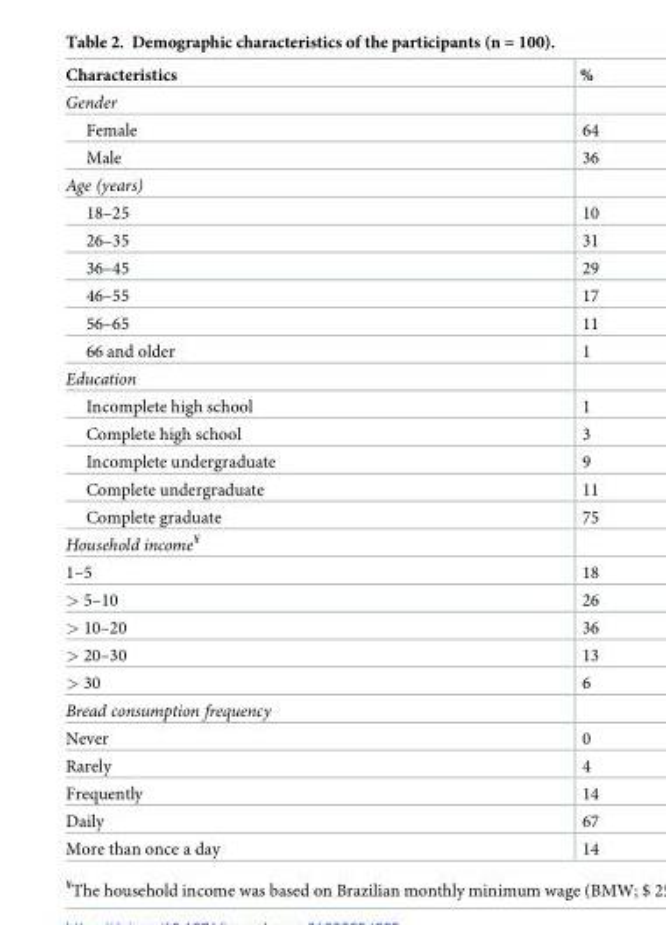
<table><thead><tr><td>Characteristics</td><td>%</td></tr></thead><tbody><tr><td colspan="2">Gender</td></tr><tr><td>Female</td><td>64</td></tr><tr><td>Male</td><td>36</td></tr><tr><td colspan="2">Age (years)</td></tr><tr><td>18–25</td><td>10</td></tr><tr><td>26–35</td><td>31</td></tr><tr><td>36–45</td><td>29</td></tr><tr><td>46–55</td><td>17</td></tr><tr><td>56–65</td><td>11</td></tr><tr><td>66 and older</td><td>1</td></tr><tr><td colspan="2">Education</td></tr><tr><td>Incomplete high school</td><td>1</td></tr><tr><td>Complete high school</td><td>3</td></tr><tr><td>Incomplete undergraduate</td><td>9</td></tr><tr><td>Complete undergraduate</td><td>11</td></tr><tr><td>Complete graduate</td><td>75</td></tr><tr><td colspan="2">Household income<sup>¥</sup></td></tr><tr><td>1–5</td><td>18</td></tr><tr><td>&gt; 5–10</td><td>26</td></tr><tr><td>&gt; 10–20</td><td>36</td></tr><tr><td>&gt; 20–30</td><td>13</td></tr><tr><td>&gt; 30</td><td>6</td></tr><tr><td colspan="2">Bread consumption frequency</td></tr><tr><td>Never</td><td>0</td></tr><tr><td>Rarely</td><td>4</td></tr><tr><td>Frequently</td><td>14</td></tr><tr><td>Daily</td><td>67</td></tr><tr><td>More than once a day</td><td>14</td></tr></tbody></table>